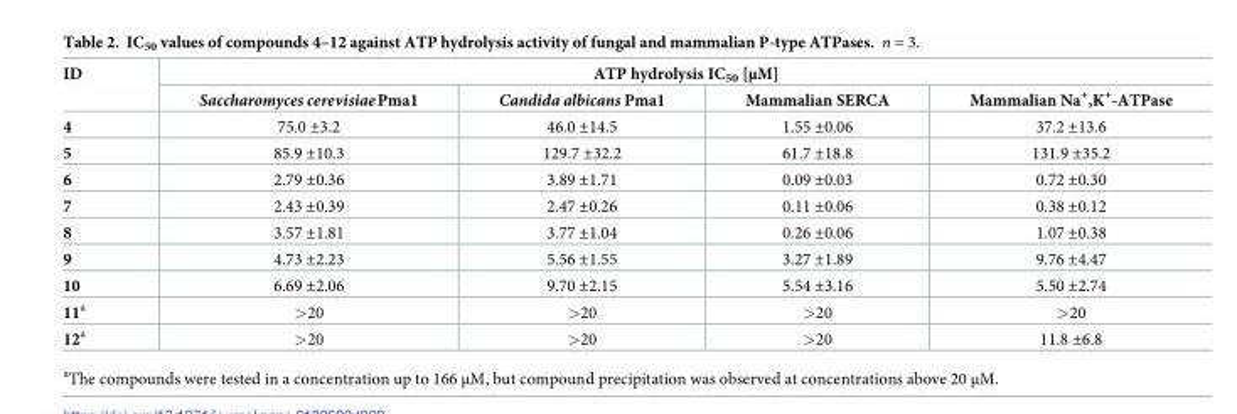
<table><thead><tr><td rowspan="2">ID</td><td colspan="4">ATP hydrolysis IC<sub>50</sub> [μM]</td></tr><tr><td>Saccharomyces cerevisiaePma1</td><td>Candida albicans Pma1</td><td>Mammalian SERCA</td><td>Mammalian Na<sup>+</sup>,K<sup>+</sup>-ATPase</td></tr></thead><tbody><tr><td>4</td><td>75.0 ±3.2</td><td>46.0 ±14.5</td><td>1.55 ±0.06</td><td>37.2 ±13.6</td></tr><tr><td>5</td><td>85.9 ±10.3</td><td>129.7 ±32.2</td><td>61.7 ±18.8</td><td>131.9 ±35.2</td></tr><tr><td>6</td><td>2.79 ±0.36</td><td>3.89 ±1.71</td><td>0.09 ±0.03</td><td>0.72 ±0.30</td></tr><tr><td>7</td><td>2.43 ±0.39</td><td>2.47 ±0.26</td><td>0.11 ±0.06</td><td>0.38 ±0.12</td></tr><tr><td>8</td><td>3.57 ±1.81</td><td>3.77 ±1.04</td><td>0.26 ±0.06</td><td>1.07 ±0.38</td></tr><tr><td>9</td><td>4.73 ±2.23</td><td>5.56 ±1.55</td><td>3.27 ±1.89</td><td>9.76 ±4.47</td></tr><tr><td>10</td><td>6.69 ±2.06</td><td>9.70 ±2.15</td><td>5.54 ±3.16</td><td>5.50 ±2.74</td></tr><tr><td>11<sup>a</sup></td><td>&gt;20</td><td>&gt;20</td><td>&gt;20</td><td>&gt;20</td></tr><tr><td>12<sup>a</sup></td><td>&gt;20</td><td>&gt;20</td><td>&gt;20</td><td>11.8 ±6.8</td></tr></tbody></table>